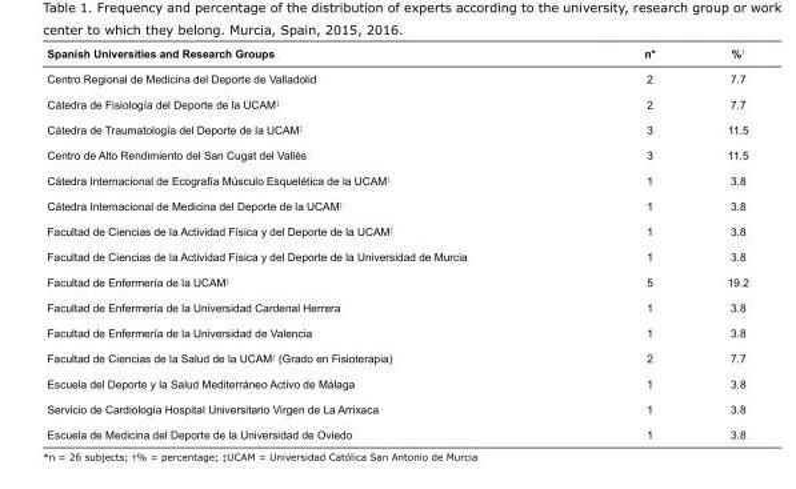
<table><tbody><tr><td>Spanish Universities and Research Groups</td><td>n*</td><td>%<sup>†</sup></td></tr><tr><td>Centro Regional de Medicina del Deporte de Valladolid</td><td>2</td><td>7.7</td></tr><tr><td>Cátedra de Fisiología del Deporte de la UCAM<sup>‡</sup></td><td>2</td><td>7.7</td></tr><tr><td>Cátedra de Traumatología del Deporte de la UCAM<sup>‡</sup></td><td>3</td><td>11.5</td></tr><tr><td>Centro de Alto Rendimiento del San Cugat del Vallés</td><td>3</td><td>11.5</td></tr><tr><td>Cátedra Internacional de Ecografía Músculo Esquelética de la UCAM<sup>‡</sup></td><td>1</td><td>3.8</td></tr><tr><td>Cátedra Internacional de Medicina del Deporte de la UCAM<sup>‡</sup></td><td>1</td><td>3.8</td></tr><tr><td>Facultad de Ciencias de la Actividad Física y del Deporte de la UCAM<sup>‡</sup></td><td>1</td><td>3.8</td></tr><tr><td>Facultad de Ciencias de la Actividad Física y del Deporte de la Universidad de Murcia</td><td>1</td><td>3.8</td></tr><tr><td>Facultad de Enfermería de la UCAM<sup>‡</sup></td><td>5</td><td>19.2</td></tr><tr><td>Facultad de Enfermería de la Universidad Cardenal Herrera</td><td>1</td><td>3.8</td></tr><tr><td>Facultad de Enfermería de la Universidad de Valencia</td><td>1</td><td>3.8</td></tr><tr><td>Facultad de Ciencias de la Salud de la UCAM<sup>‡</sup> (Grado en Fisioterapia)</td><td>2</td><td>7.7</td></tr><tr><td>Escuela del Deporte y la Salud Mediterráneo Activo de Málaga</td><td>1</td><td>3.8</td></tr><tr><td>Servicio de Cardiología Hospital Universitario Virgen de La Arrixaca</td><td>1</td><td>3.8</td></tr><tr><td>Escuela de Medicina del Deporte de la Universidad de Oviedo</td><td>1</td><td>3.8</td></tr></tbody></table>